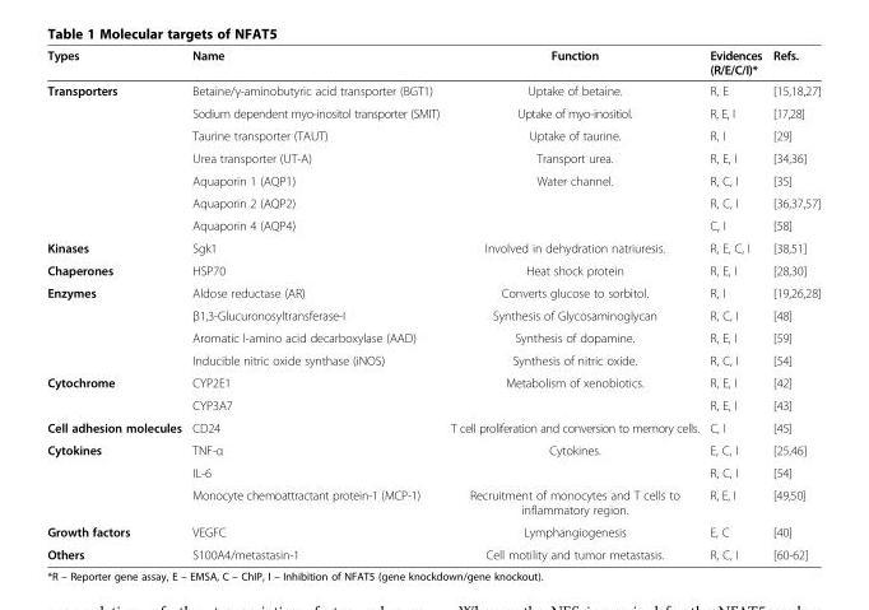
<table><thead><tr><td>Types</td><td>Name</td><td>Function</td><td>Evidences (R/E/C/I)*</td><td>Refs.</td></tr></thead><tbody><tr><td rowspan="7">Transporters</td><td>Betaine/γ-aminobutyric acid transporter (BGT1)</td><td>Uptake of betaine.</td><td>R, E</td><td>[15,18,27]</td></tr><tr><td>Sodium dependent myo-inositol transporter (SMIT)</td><td>Uptake of myo-inositiol.</td><td>R, E, I</td><td>[17,28]</td></tr><tr><td>Taurine transporter (TAUT)</td><td>Uptake of taurine.</td><td>R, I</td><td>[29]</td></tr><tr><td>Urea transporter (UT-A)</td><td>Transport urea.</td><td>R, E, I</td><td>[34,36]</td></tr><tr><td>Aquaporin 1 (AQP1)</td><td rowspan="3">Water channel.</td><td>R, C, I</td><td>[35]</td></tr><tr><td>Aquaporin 2 (AQP2)</td><td>R, C, I</td><td>[36,37,57]</td></tr><tr><td>Aquaporin 4 (AQP4)</td><td>C, I</td><td>[58]</td></tr><tr><td>Kinases</td><td>Sgk1</td><td>Involved in dehydration natriuresis.</td><td>R, E, C, I</td><td>[38,51]</td></tr><tr><td>Chaperones</td><td>HSP70</td><td>Heat shock protein</td><td>R, E, I</td><td>[28,30]</td></tr><tr><td rowspan="4">Enzymes</td><td>Aldose reductase (AR)</td><td>Converts glucose to sorbitol.</td><td>R, I</td><td>[19,26,28]</td></tr><tr><td>β1,3-Glucuronosyltransferase-I</td><td>Synthesis of Glycosaminoglycan</td><td>R, C, I</td><td>[48]</td></tr><tr><td>Aromatic l-amino acid decarboxylase (AAD)</td><td>Synthesis of dopamine.</td><td>R, E, I</td><td>[59]</td></tr><tr><td>Inducible nitric oxide synthase (iNOS)</td><td>Synthesis of nitric oxide.</td><td>R, C, I</td><td>[54]</td></tr><tr><td rowspan="2">Cytochrome</td><td>CYP2E1</td><td rowspan="2">Metabolism of xenobiotics.</td><td>R, E, I</td><td>[42]</td></tr><tr><td>CYP3A7</td><td>R, E, I</td><td>[43]</td></tr><tr><td>Cell adhesion molecules</td><td>CD24</td><td>T cell proliferation and conversion to memory cells.</td><td>C, I</td><td>[45]</td></tr><tr><td rowspan="3">Cytokines</td><td>TNF-α</td><td rowspan="2">Cytokines.</td><td>E, C, I</td><td>[25,46]</td></tr><tr><td>IL-6</td><td>R, C, I</td><td>[54]</td></tr><tr><td>Monocyte chemoattractant protein-1 (MCP-1)</td><td>Recruitment of monocytes and T cells to inflammatory region.</td><td>R, E, I</td><td>[49,50]</td></tr><tr><td>Growth factors</td><td>VEGFC</td><td>Lymphangiogenesis</td><td>E, C</td><td>[40]</td></tr><tr><td>Others</td><td>S100A4/metastasin-1</td><td>Cell motility and tumor metastasis.</td><td>R, C, I</td><td>[60-62]</td></tr></tbody></table>